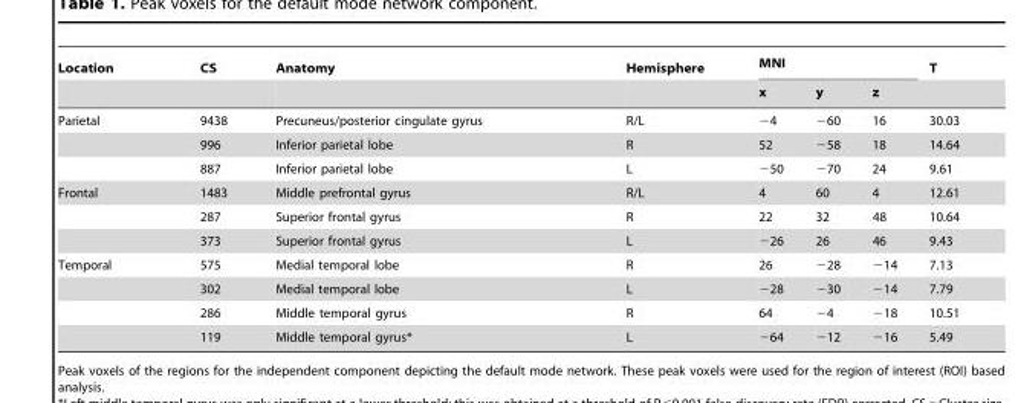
<table><thead><tr><td rowspan="2">Location</td><td rowspan="2">CS</td><td rowspan="2">Anatomy</td><td rowspan="2">Hemisphere</td><td colspan="3">MNI</td><td rowspan="2">T</td></tr><tr><td>x</td><td>y</td><td>z</td></tr></thead><tbody><tr><td rowspan="3">Parietal</td><td>9438</td><td>Precuneus/posterior cingulate gyrus</td><td>R/L</td><td>−4</td><td>−60</td><td>16</td><td>30.03</td></tr><tr><td>996</td><td>Inferior parietal lobe</td><td>R</td><td>52</td><td>−58</td><td>18</td><td>14.64</td></tr><tr><td>887</td><td>Inferior parietal lobe</td><td>L</td><td>−50</td><td>−70</td><td>24</td><td>9.61</td></tr><tr><td rowspan="3">Frontal</td><td>1483</td><td>Middle prefrontal gyrus</td><td>R/L</td><td>4</td><td>60</td><td>4</td><td>12.61</td></tr><tr><td>287</td><td>Superior frontal gyrus</td><td>R</td><td>22</td><td>32</td><td>48</td><td>10.64</td></tr><tr><td>373</td><td>Superior frontal gyrus</td><td>L</td><td>−26</td><td>26</td><td>46</td><td>9.43</td></tr><tr><td rowspan="4">Temporal</td><td>575</td><td>Medial temporal lobe</td><td>R</td><td>26</td><td>−28</td><td>−14</td><td>7.13</td></tr><tr><td>302</td><td>Medial temporal lobe</td><td>L</td><td>−28</td><td>−30</td><td>−14</td><td>7.79</td></tr><tr><td>286</td><td>Middle temporal gyrus</td><td>R</td><td>64</td><td>−4</td><td>−18</td><td>10.51</td></tr><tr><td>119</td><td>Middle temporal gyrus*</td><td>L</td><td>−64</td><td>−12</td><td>−16</td><td>5.49</td></tr></tbody></table>